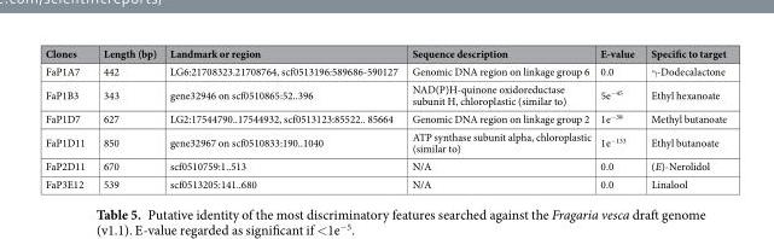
<table><thead><tr><td>Clones</td><td>Length (bp)</td><td>Landmark or region</td><td>Sequence description</td><td>E-value</td><td>Specific to target</td></tr></thead><tbody><tr><td>FaP1A7</td><td>442</td><td>LG6:21708323.21708764, scf0513196:589686-590127</td><td>Genomic DNA region on linkage group 6</td><td>0.0</td><td>γ-Dodecalactone</td></tr><tr><td>FaP1B3</td><td>343</td><td>gene32946 on scf0510865:52..396</td><td>NAD(P)H-quinone oxidoreductase subunit H, chloroplastic (similar to)</td><td>5e<sup>−45</sup></td><td>Ethyl hexanoate</td></tr><tr><td>FaP1D7</td><td>627</td><td>LG2:17544790..17544932, scf0513123:85522.. 85664</td><td>Genomic DNA region on linkage group 2</td><td>1e<sup>−38</sup></td><td>Methyl butanoate</td></tr><tr><td>FaP1D11</td><td>850</td><td>gene32967 on scf0510833:190..1040</td><td>ATP synthase subunit alpha, chloroplastic (similar to)</td><td>1e<sup>−133</sup></td><td>Ethyl butanoate</td></tr><tr><td>FaP2D11</td><td>670</td><td>scf0510759:1..513</td><td>N/A</td><td>0.0</td><td>(E)-Nerolidol</td></tr><tr><td>FaP3E12</td><td>539</td><td>scf0513205:141..680</td><td>N/A</td><td>0.0</td><td>Linalool</td></tr></tbody></table>